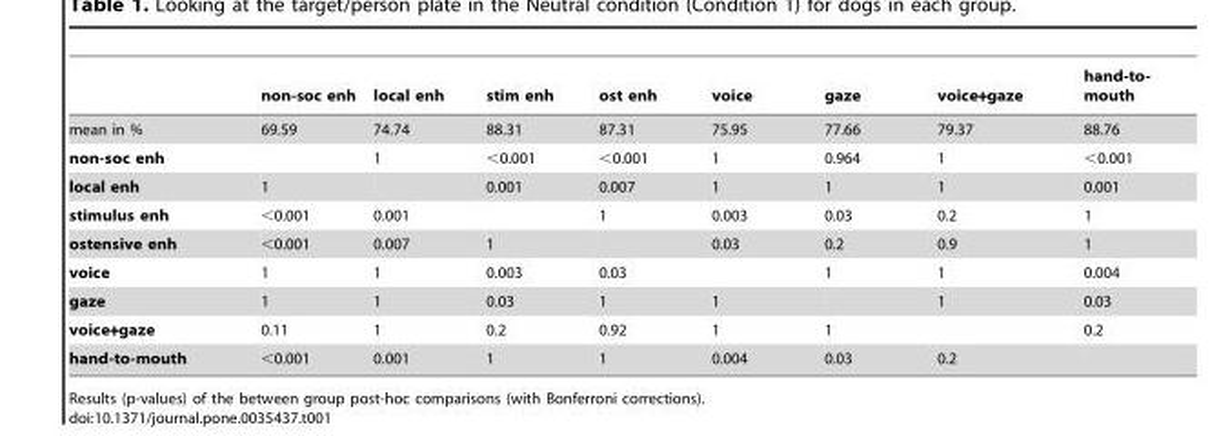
<table><thead><tr><td></td><td>non-soc enh</td><td>local enh</td><td>stim enh</td><td>ost enh</td><td>voice</td><td>gaze</td><td>voice+gaze</td><td>hand-to- mouth</td></tr></thead><tbody><tr><td>mean in %</td><td>69.59</td><td>74.74</td><td>88.31</td><td>87.31</td><td>75.95</td><td>77.66</td><td>79.37</td><td>88.76</td></tr><tr><td>non-soc enh</td><td></td><td>1</td><td>&lt;0.001</td><td>&lt;0.001</td><td>1</td><td>0.964</td><td>1</td><td>&lt;0.001</td></tr><tr><td>local enh</td><td>1</td><td></td><td>0.001</td><td>0.007</td><td>1</td><td>1</td><td>1</td><td>0.001</td></tr><tr><td>stimulus enh</td><td>&lt;0.001</td><td>0.001</td><td></td><td>1</td><td>0.003</td><td>0.03</td><td>0.2</td><td>1</td></tr><tr><td>ostensive enh</td><td>&lt;0.001</td><td>0.007</td><td>1</td><td></td><td>0.03</td><td>0.2</td><td>0.9</td><td>1</td></tr><tr><td>voice</td><td>1</td><td>1</td><td>0.003</td><td>0.03</td><td></td><td>1</td><td>1</td><td>0.004</td></tr><tr><td>gaze</td><td>1</td><td>1</td><td>0.03</td><td>1</td><td>1</td><td></td><td>1</td><td>0.03</td></tr><tr><td>voice+gaze</td><td>0.11</td><td>1</td><td>0.2</td><td>0.92</td><td>1</td><td>1</td><td></td><td>0.2</td></tr><tr><td>hand-to-mouth</td><td>&lt;0.001</td><td>0.001</td><td>1</td><td>1</td><td>0.004</td><td>0.03</td><td>0.2</td><td></td></tr></tbody></table>